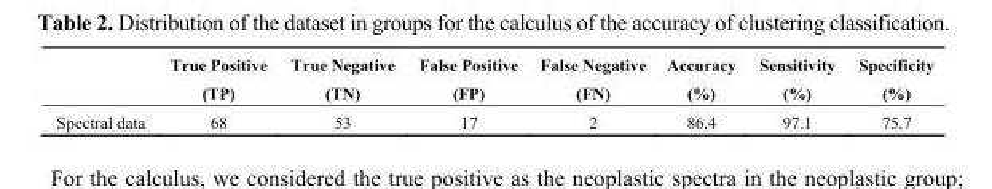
<table><thead><tr><td></td><td>True Positive (TP)</td><td>True Negative (TN)</td><td>False Positive (FP)</td><td>False Negative (FN)</td><td>Accuracy (%)</td><td>Sensitivity (%)</td><td>Specificity (%)</td></tr></thead><tbody><tr><td>Spectral data</td><td>68</td><td>53</td><td>17</td><td>2</td><td>86.4</td><td>97.1</td><td>75.7</td></tr></tbody></table>